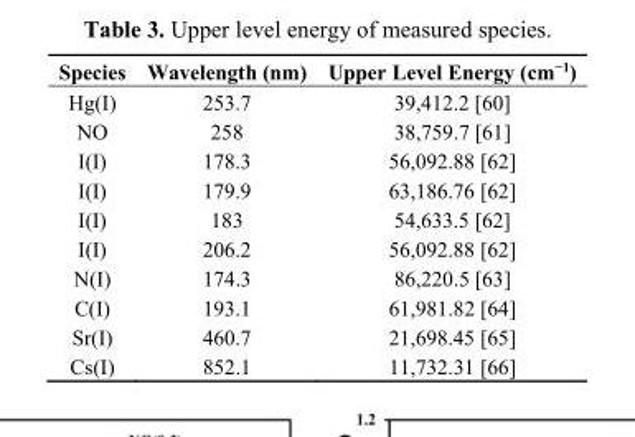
<table><thead><tr><td>Species</td><td>Wavelength (nm)</td><td>Upper Level Energy (cm<sup>−1</sup>)</td></tr></thead><tbody><tr><td>Hg(I)</td><td>253.7</td><td>39,412.2 [60]</td></tr><tr><td>NO</td><td>258</td><td>38,759.7 [61]</td></tr><tr><td>I(I)</td><td>178.3</td><td>56,092.88 [62]</td></tr><tr><td>I(I)</td><td>179.9</td><td>63,186.76 [62]</td></tr><tr><td>I(I)</td><td>183</td><td>54,633.5 [62]</td></tr><tr><td>I(I)</td><td>206.2</td><td>56,092.88 [62]</td></tr><tr><td>N(I)</td><td>174.3</td><td>86,220.5 [63]</td></tr><tr><td>C(I)</td><td>193.1</td><td>61,981.82 [64]</td></tr><tr><td>Sr(I)</td><td>460.7</td><td>21,698.45 [65]</td></tr><tr><td>Cs(I)</td><td>852.1</td><td>11,732.31 [66]</td></tr></tbody></table>